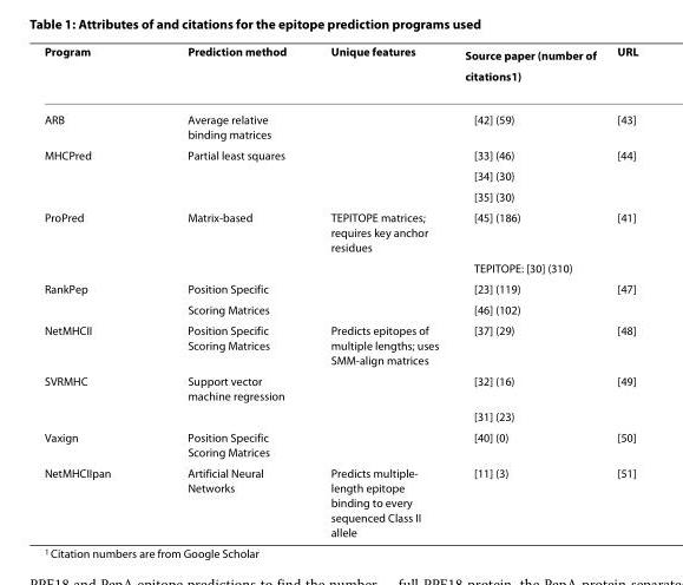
<table><thead><tr><td>Program</td><td>Prediction method</td><td>Unique features</td><td>Source paper (number of citations<sup>1</sup>)</td><td>URL</td></tr></thead><tbody><tr><td>ARB</td><td>Average relative binding matrices</td><td></td><td>[42] (59)</td><td>[43]</td></tr><tr><td rowspan="3">MHCPred</td><td>Partial least squares</td><td></td><td>[33] (46)</td><td>[44]</td></tr><tr><td></td><td></td><td>[34] (30)</td><td></td></tr><tr><td></td><td></td><td>[35] (30)</td><td></td></tr><tr><td rowspan="2">ProPred</td><td>Matrix-based</td><td>TEPITOPE matrices; requires key anchor residues</td><td>[45] (186)</td><td>[41]</td></tr><tr><td></td><td></td><td>TEPITOPE: [30] (310)</td><td></td></tr><tr><td rowspan="2">RankPep</td><td>Position Specific</td><td></td><td>[23] (119)</td><td>[47]</td></tr><tr><td>Scoring Matrices</td><td></td><td>[46] (102)</td><td></td></tr><tr><td>NetMHCII</td><td>Position Specific Scoring Matrices</td><td>Predicts epitopes of multiple lengths; uses SMM-align matrices</td><td>[37] (29)</td><td>[48]</td></tr><tr><td rowspan="2">SVRMHC</td><td>Support vector machine regression</td><td></td><td>[32] (16)</td><td>[49]</td></tr><tr><td></td><td></td><td>[31] (23)</td><td></td></tr><tr><td>Vaxign</td><td>Position Specific Scoring Matrices</td><td></td><td>[40] (0)</td><td>[50]</td></tr><tr><td>NetMHCIIpan</td><td>Artificial Neural Networks</td><td>Predicts multiple- length epitope binding to every sequenced Class II allele</td><td>[11] (3)</td><td>[51]</td></tr></tbody></table>